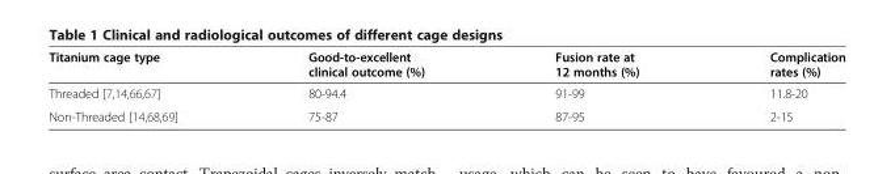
<table><thead><tr><td>Titanium cage type</td><td>Good-to-excellent clinical outcome (%)</td><td>Fusion rate at 12 months (%)</td><td>Complication rates (%)</td></tr></thead><tbody><tr><td>Threaded [7,14,66,67]</td><td>80-94.4</td><td>91-99</td><td>11.8-20</td></tr><tr><td>Non-Threaded [14,68,69]</td><td>75-87</td><td>87-95</td><td>2-15</td></tr></tbody></table>